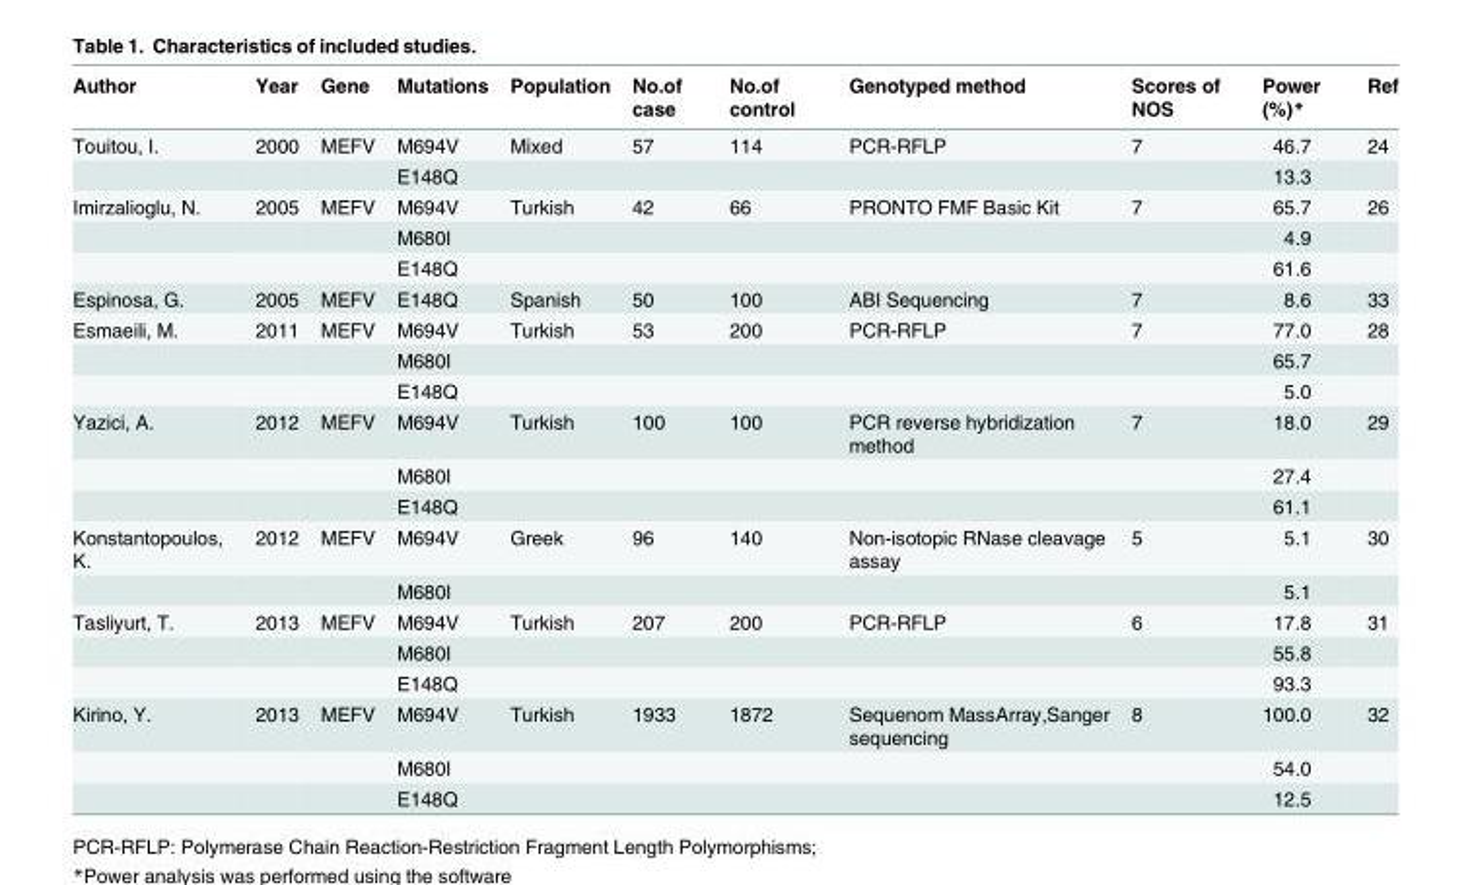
<table><thead><tr><td>Author</td><td>Year</td><td>Gene</td><td>Mutations</td><td>Population</td><td>No.of case</td><td>No.of control</td><td>Genotyped method</td><td>Scores of NOS</td><td>Power (%)*</td><td>Ref</td></tr></thead><tbody><tr><td rowspan="2">Touitou, I.</td><td>2000</td><td>MEFV</td><td>M694V</td><td>Mixed</td><td>57</td><td>114</td><td>PCR-RFLP</td><td>7</td><td>46.7</td><td>24</td></tr><tr><td></td><td></td><td>E148Q</td><td></td><td></td><td></td><td></td><td></td><td>13.3</td><td></td></tr><tr><td rowspan="3">Imirzalioglu, N.</td><td>2005</td><td>MEFV</td><td>M694V</td><td>Turkish</td><td>42</td><td>66</td><td>PRONTO FMF Basic Kit</td><td>7</td><td>65.7</td><td>26</td></tr><tr><td></td><td></td><td>M680I</td><td></td><td></td><td></td><td></td><td></td><td>4.9</td><td></td></tr><tr><td></td><td></td><td>E148Q</td><td></td><td></td><td></td><td></td><td></td><td>61.6</td><td></td></tr><tr><td>Espinosa, G.</td><td>2005</td><td>MEFV</td><td>E148Q</td><td>Spanish</td><td>50</td><td>100</td><td>ABI Sequencing</td><td>7</td><td>8.6</td><td>33</td></tr><tr><td rowspan="3">Esmaeili, M.</td><td>2011</td><td>MEFV</td><td>M694V</td><td>Turkish</td><td>53</td><td>200</td><td>PCR-RFLP</td><td>7</td><td>77.0</td><td>28</td></tr><tr><td></td><td></td><td>M680I</td><td></td><td></td><td></td><td></td><td></td><td>65.7</td><td></td></tr><tr><td></td><td></td><td>E148Q</td><td></td><td></td><td></td><td></td><td></td><td>5.0</td><td></td></tr><tr><td rowspan="3">Yazici, A.</td><td>2012</td><td>MEFV</td><td>M694V</td><td>Turkish</td><td>100</td><td>100</td><td>PCR reverse hybridization method</td><td>7</td><td>18.0</td><td>29</td></tr><tr><td></td><td></td><td>M680I</td><td></td><td></td><td></td><td></td><td></td><td>27.4</td><td></td></tr><tr><td></td><td></td><td>E148Q</td><td></td><td></td><td></td><td></td><td></td><td>61.1</td><td></td></tr><tr><td rowspan="2">Konstantopoulos, K.</td><td>2012</td><td>MEFV</td><td>M694V</td><td>Greek</td><td>96</td><td>140</td><td>Non-isotopic RNase cleavage assay</td><td>5</td><td>5.1</td><td>30</td></tr><tr><td></td><td></td><td>M680I</td><td></td><td></td><td></td><td></td><td></td><td>5.1</td><td></td></tr><tr><td rowspan="3">Tasliyurt, T.</td><td>2013</td><td>MEFV</td><td>M694V</td><td>Turkish</td><td>207</td><td>200</td><td>PCR-RFLP</td><td>6</td><td>17.8</td><td>31</td></tr><tr><td></td><td></td><td>M680I</td><td></td><td></td><td></td><td></td><td></td><td>55.8</td><td></td></tr><tr><td></td><td></td><td>E148Q</td><td></td><td></td><td></td><td></td><td></td><td>93.3</td><td></td></tr><tr><td rowspan="3">Kirino, Y.</td><td>2013</td><td>MEFV</td><td>M694V</td><td>Turkish</td><td>1933</td><td>1872</td><td>Sequenom MassArray,Sanger sequencing</td><td>8</td><td>100.0</td><td>32</td></tr><tr><td></td><td></td><td>M680I</td><td></td><td></td><td></td><td></td><td></td><td>54.0</td><td></td></tr><tr><td></td><td></td><td>E148Q</td><td></td><td></td><td></td><td></td><td></td><td>12.5</td><td></td></tr></tbody></table>